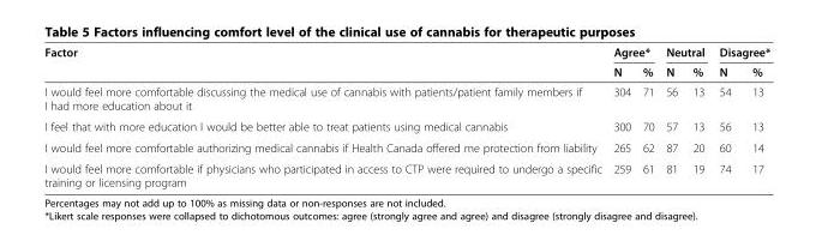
<table><thead><tr><td rowspan="2">Factor</td><td colspan="2">Agree*</td><td colspan="2">Neutral</td><td colspan="2">Disagree*</td></tr><tr><td>N</td><td>%</td><td>N</td><td>%</td><td>N</td><td>%</td></tr></thead><tbody><tr><td>I would feel more comfortable discussing the medical use of cannabis with patients/patient family members if I had more education about it</td><td>304</td><td>71</td><td>56</td><td>13</td><td>54</td><td>13</td></tr><tr><td>I feel that with more education I would be better able to treat patients using medical cannabis</td><td>300</td><td>70</td><td>57</td><td>13</td><td>56</td><td>13</td></tr><tr><td>I would feel more comfortable authorizing medical cannabis if Health Canada offered me protection from liability</td><td>265</td><td>62</td><td>87</td><td>20</td><td>60</td><td>14</td></tr><tr><td>I would feel more comfortable if physicians who participated in access to CTP were required to undergo a specific training or licensing program</td><td>259</td><td>61</td><td>81</td><td>19</td><td>74</td><td>17</td></tr></tbody></table>